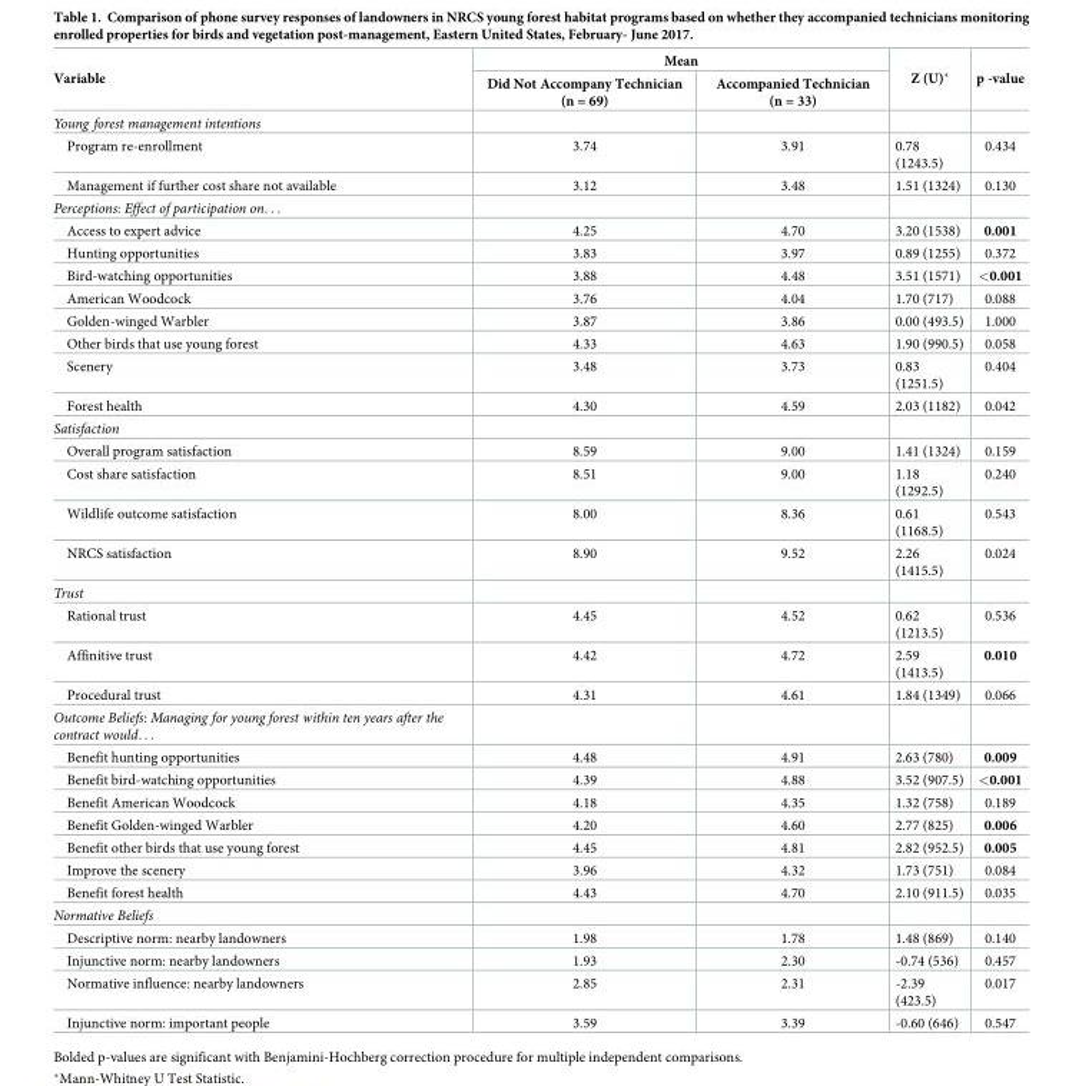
<table><thead><tr><td rowspan="2">Variable</td><td colspan="2">Mean</td><td rowspan="2">Z (U)*</td><td rowspan="2">p -value</td></tr><tr><td>Did Not Accompany Technician (n = 69)</td><td>Accompanied Technician (n = 33)</td></tr></thead><tbody><tr><td colspan="5">Young forest management intentions</td></tr><tr><td>Program re-enrollment</td><td>3.74</td><td>3.91</td><td>0.78 (1243.5)</td><td>0.434</td></tr><tr><td>Management if further cost share not available</td><td>3.12</td><td>3.48</td><td>1.51 (1324)</td><td>0.130</td></tr><tr><td colspan="5">Perceptions: Effect of participation on. . .</td></tr><tr><td>Access to expert advice</td><td>4.25</td><td>4.70</td><td>3.20 (1538)</td><td>0.001</td></tr><tr><td>Hunting opportunities</td><td>3.83</td><td>3.97</td><td>0.89 (1255)</td><td>0.372</td></tr><tr><td>Bird-watching opportunities</td><td>3.88</td><td>4.48</td><td>3.51 (1571)</td><td>&lt;0.001</td></tr><tr><td>American Woodcock</td><td>3.76</td><td>4.04</td><td>1.70 (717)</td><td>0.088</td></tr><tr><td>Golden-winged Warbler</td><td>3.87</td><td>3.86</td><td>0.00 (493.5)</td><td>1.000</td></tr><tr><td>Other birds that use young forest</td><td>4.33</td><td>4.63</td><td>1.90 (990.5)</td><td>0.058</td></tr><tr><td>Scenery</td><td>3.48</td><td>3.73</td><td>0.83 (1251.5)</td><td>0.404</td></tr><tr><td>Forest health</td><td>4.30</td><td>4.59</td><td>2.03 (1182)</td><td>0.042</td></tr><tr><td colspan="5">Satisfaction</td></tr><tr><td>Overall program satisfaction</td><td>8.59</td><td>9.00</td><td>1.41 (1324)</td><td>0.159</td></tr><tr><td>Cost share satisfaction</td><td>8.51</td><td>9.00</td><td>1.18 (1292.5)</td><td>0.240</td></tr><tr><td>Wildlife outcome satisfaction</td><td>8.00</td><td>8.36</td><td>0.61 (1168.5)</td><td>0.543</td></tr><tr><td>NRCS satisfaction</td><td>8.90</td><td>9.52</td><td>2.26 (1415.5)</td><td>0.024</td></tr><tr><td colspan="5">Trust</td></tr><tr><td>Rational trust</td><td>4.45</td><td>4.52</td><td>0.62 (1213.5)</td><td>0.536</td></tr><tr><td>Affinitive trust</td><td>4.42</td><td>4.72</td><td>2.59 (1413.5)</td><td>0.010</td></tr><tr><td>Procedural trust</td><td>4.31</td><td>4.61</td><td>1.84 (1349)</td><td>0.066</td></tr><tr><td colspan="5">Outcome Beliefs: Managing for young forest within ten years after the contract would. . .</td></tr><tr><td>Benefit hunting opportunities</td><td>4.48</td><td>4.91</td><td>2.63 (780)</td><td>0.009</td></tr><tr><td>Benefit bird-watching opportunities</td><td>4.39</td><td>4.88</td><td>3.52 (907.5)</td><td>&lt;0.001</td></tr><tr><td>Benefit American Woodcock</td><td>4.18</td><td>4.35</td><td>1.32 (758)</td><td>0.189</td></tr><tr><td>Benefit Golden-winged Warbler</td><td>4.20</td><td>4.60</td><td>2.77 (825)</td><td>0.006</td></tr><tr><td>Benefit other birds that use young forest</td><td>4.45</td><td>4.81</td><td>2.82 (952.5)</td><td>0.005</td></tr><tr><td>Improve the scenery</td><td>3.96</td><td>4.32</td><td>1.73 (751)</td><td>0.084</td></tr><tr><td>Benefit forest health</td><td>4.43</td><td>4.70</td><td>2.10 (911.5)</td><td>0.035</td></tr><tr><td colspan="5">Normative Beliefs</td></tr><tr><td>Descriptive norm: nearby landowners</td><td>1.98</td><td>1.78</td><td>1.48 (869)</td><td>0.140</td></tr><tr><td>Injunctive norm: nearby landowners</td><td>1.93</td><td>2.30</td><td>-0.74 (536)</td><td>0.457</td></tr><tr><td>Normative influence: nearby landowners</td><td>2.85</td><td>2.31</td><td>-2.39 (423.5)</td><td>0.017</td></tr><tr><td>Injunctive norm: important people</td><td>3.59</td><td>3.39</td><td>-0.60 (646)</td><td>0.547</td></tr></tbody></table>